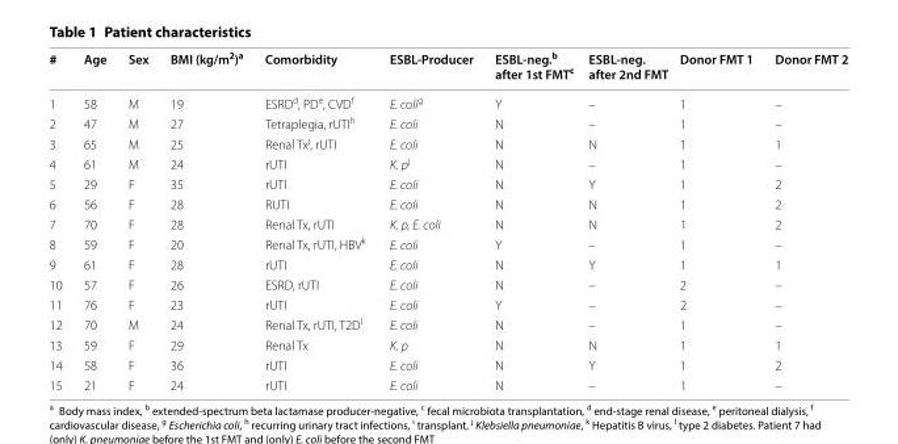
<table><thead><tr><td>#</td><td>Age</td><td>Sex</td><td>BMI (kg/m<sup>2</sup>)<sup>a</sup></td><td>Comorbidity</td><td>ESBL-Producer</td><td>ESBL-neg.<sup>b</sup> after 1st FMT<sup>c</sup></td><td>ESBL-neg. after 2nd FMT</td><td>Donor FMT 1</td><td>Donor FMT 2</td></tr></thead><tbody><tr><td>1</td><td>58</td><td>M</td><td>19</td><td>ESRD<sup>d</sup>, PD<sup>e</sup>, CVD<sup>f</sup></td><td>E. coli<sup>g</sup></td><td>Y</td><td>–</td><td>1</td><td>–</td></tr><tr><td>2</td><td>47</td><td>M</td><td>27</td><td>Tetraplegia, rUTI<sup>h</sup></td><td>E. coli</td><td>N</td><td>–</td><td>1</td><td>–</td></tr><tr><td>3</td><td>65</td><td>M</td><td>25</td><td>Renal Tx<sup>j</sup>, rUTI</td><td>E. coli</td><td>N</td><td>N</td><td>1</td><td>1</td></tr><tr><td>4</td><td>61</td><td>M</td><td>24</td><td>rUTI</td><td>K. p<sup>j</sup></td><td>N</td><td>–</td><td>1</td><td>–</td></tr><tr><td>5</td><td>29</td><td>F</td><td>35</td><td>rUTI</td><td>E. coli</td><td>N</td><td>Y</td><td>1</td><td>2</td></tr><tr><td>6</td><td>56</td><td>F</td><td>28</td><td>RUTI</td><td>E. coli</td><td>N</td><td>N</td><td>1</td><td>2</td></tr><tr><td>7</td><td>70</td><td>F</td><td>28</td><td>Renal Tx, rUTI</td><td>K. p, E. coli</td><td>N</td><td>N</td><td>1</td><td>2</td></tr><tr><td>8</td><td>59</td><td>F</td><td>20</td><td>Renal Tx, rUTI, HBV<sup>k</sup></td><td>E. coli</td><td>Y</td><td>–</td><td>1</td><td>–</td></tr><tr><td>9</td><td>61</td><td>F</td><td>28</td><td>rUTI</td><td>E. coli</td><td>N</td><td>Y</td><td>1</td><td>1</td></tr><tr><td>10</td><td>57</td><td>F</td><td>26</td><td>ESRD, rUTI</td><td>E. coli</td><td>N</td><td>–</td><td>2</td><td>–</td></tr><tr><td>11</td><td>76</td><td>F</td><td>23</td><td>rUTI</td><td>E. coli</td><td>Y</td><td>–</td><td>2</td><td>–</td></tr><tr><td>12</td><td>70</td><td>M</td><td>24</td><td>Renal Tx, rUTI, T2D<sup>l</sup></td><td>E. coli</td><td>N</td><td>–</td><td>1</td><td>–</td></tr><tr><td>13</td><td>59</td><td>F</td><td>29</td><td>Renal Tx</td><td>K. p</td><td>N</td><td>N</td><td>1</td><td>1</td></tr><tr><td>14</td><td>58</td><td>F</td><td>36</td><td>rUTI</td><td>E. coli</td><td>N</td><td>Y</td><td>1</td><td>2</td></tr><tr><td>15</td><td>21</td><td>F</td><td>24</td><td>rUTI</td><td>E. coli</td><td>N</td><td>–</td><td>1</td><td>–</td></tr></tbody></table>